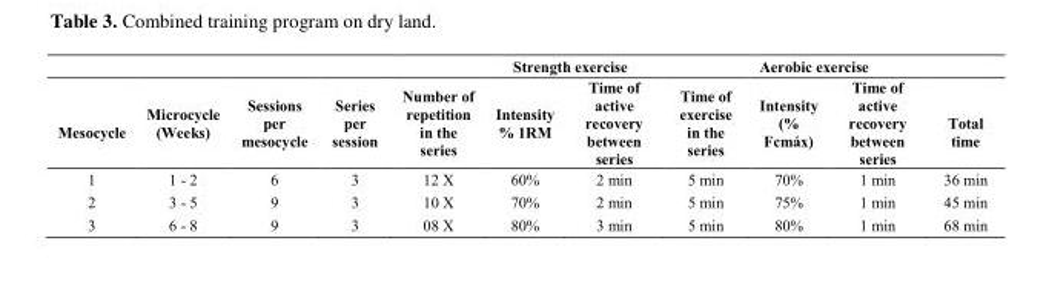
<table><thead><tr><td rowspan="2">Mesocycle</td><td rowspan="2">Microcycle (Weeks)</td><td rowspan="2">Sessions per mesocycle</td><td rowspan="2">Series per session</td><td rowspan="2">Number of repetition in the series</td><td colspan="3">Strength exercise</td><td colspan="3">Aerobic exercise</td></tr><tr><td>Intensity % 1RM</td><td>Time of active recovery between series</td><td>Time of exercise in the series</td><td>Intensity (% Fcmáx)</td><td>Time of active recovery between series</td><td>Total time</td></tr></thead><tbody><tr><td>1</td><td>1 - 2</td><td>6</td><td>3</td><td>12 X</td><td>60%</td><td>2 min</td><td>5 min</td><td>70%</td><td>1 min</td><td>36 min</td></tr><tr><td>2</td><td>3 - 5</td><td>9</td><td>3</td><td>10 X</td><td>70%</td><td>2 min</td><td>5 min</td><td>75%</td><td>1 min</td><td>45 min</td></tr><tr><td>3</td><td>6 - 8</td><td>9</td><td>3</td><td>08 X</td><td>80%</td><td>3 min</td><td>5 min</td><td>80%</td><td>1 min</td><td>68 min</td></tr></tbody></table>